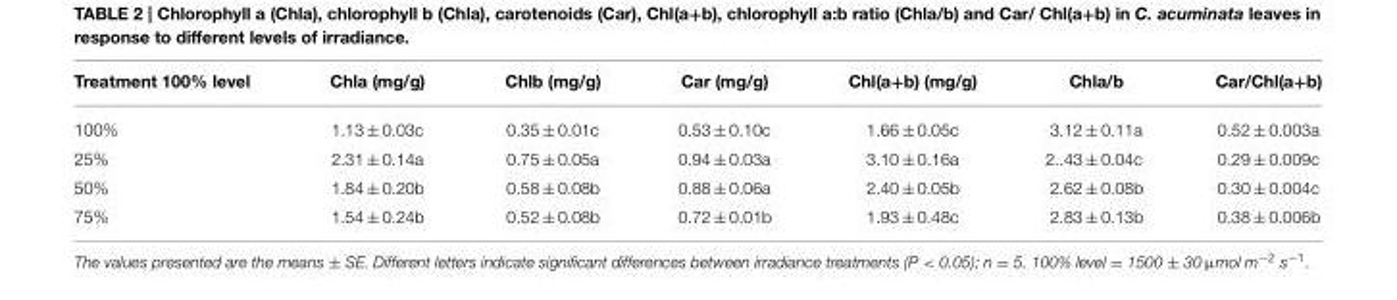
<table><thead><tr><td>Treatment 100% level</td><td>Chla (mg/g)</td><td>Chlb (mg/g)</td><td>Car (mg/g)</td><td>Chl(a+b) (mg/g)</td><td>Chla/b</td><td>Car/Chl(a+b)</td></tr></thead><tbody><tr><td>100%</td><td>1.13 ± 0.03c</td><td>0.35 ± 0.01c</td><td>0.53 ± 0.10c</td><td>1.66 ± 0.05c</td><td>3.12 ± 0.11a</td><td>0.52 ± 0.003a</td></tr><tr><td>25%</td><td>2.31 ± 0.14a</td><td>0.75 ± 0.05a</td><td>0.94 ± 0.03a</td><td>3.10 ± 0.16a</td><td>2..43 ± 0.04c</td><td>0.29 ± 0.009c</td></tr><tr><td>50%</td><td>1.84 ± 0.20b</td><td>0.58 ± 0.08b</td><td>0.88 ± 0.06a</td><td>2.40 ± 0.05b</td><td>2.62 ± 0.08b</td><td>0.30 ± 0.004c</td></tr><tr><td>75%</td><td>1.54 ± 0.24b</td><td>0.52 ± 0.08b</td><td>0.72 ± 0.01b</td><td>1.93 ± 0.48c</td><td>2.83 ± 0.13b</td><td>0.38 ± 0.006b</td></tr></tbody></table>